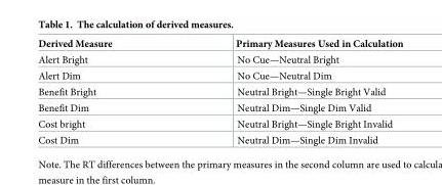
<table><thead><tr><td>Derived Measure</td><td>Primary Measures Used in Calculation</td></tr></thead><tbody><tr><td>Alert Bright</td><td>No Cue—Neutral Bright</td></tr><tr><td>Alert Dim</td><td>No Cue—Neutral Dim</td></tr><tr><td>Benefit Bright</td><td>Neutral Bright—Single Bright Valid</td></tr><tr><td>Benefit Dim</td><td>Neutral Dim—Single Dim Valid</td></tr><tr><td>Cost bright</td><td>Neutral Bright—Single Bright Invalid</td></tr><tr><td>Cost Dim</td><td>Neutral Dim—Single Dim Invalid</td></tr></tbody></table>